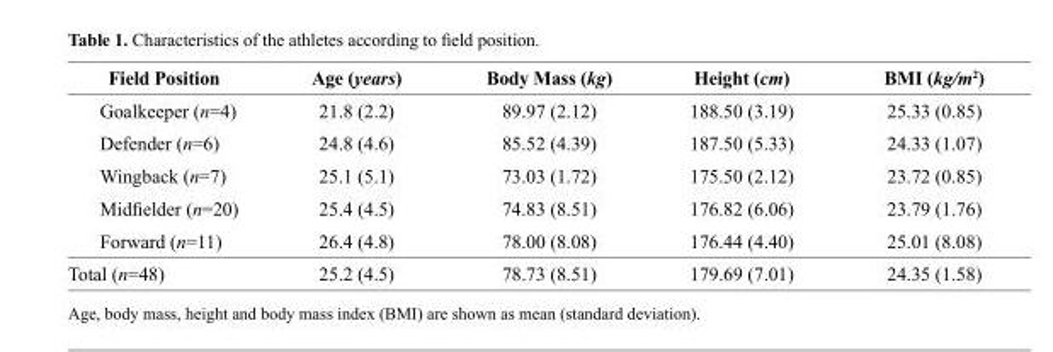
<table><thead><tr><td>Field Position</td><td>Age (years)</td><td>Body Mass (kg)</td><td>Height (cm)</td><td>BMI (kg/m<sup>2</sup>)</td></tr></thead><tbody><tr><td>Goalkeeper (n=4)</td><td>21.8 (2.2)</td><td>89.97 (2.12)</td><td>188.50 (3.19)</td><td>25.33 (0.85)</td></tr><tr><td>Defender (n=6)</td><td>24.8 (4.6)</td><td>85.52 (4.39)</td><td>187.50 (5.33)</td><td>24.33 (1.07)</td></tr><tr><td>Wingback (n=7)</td><td>25.1 (5.1)</td><td>73.03 (1.72)</td><td>175.50 (2.12)</td><td>23.72 (0.85)</td></tr><tr><td>Midfielder (n=20)</td><td>25.4 (4.5)</td><td>74.83 (8.51)</td><td>176.82 (6.06)</td><td>23.79 (1.76)</td></tr><tr><td>Forward (n=11)</td><td>26.4 (4.8)</td><td>78.00 (8.08)</td><td>176.44 (4.40)</td><td>25.01 (8.08)</td></tr><tr><td>Total (n=48)</td><td>25.2 (4.5)</td><td>78.73 (8.51)</td><td>179.69 (7.01)</td><td>24.35 (1.58)</td></tr></tbody></table>